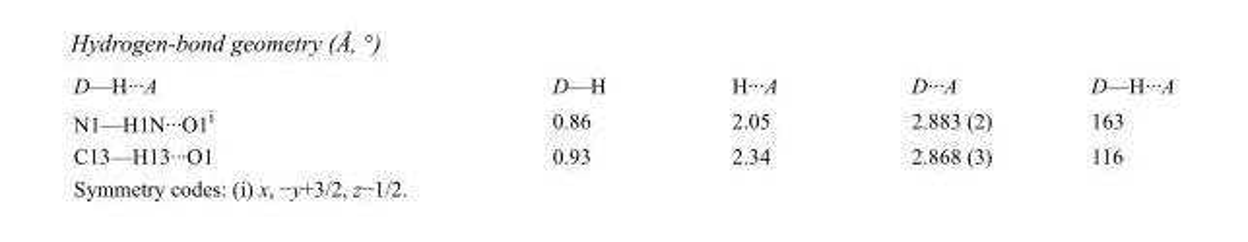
<table><tbody><tr><td>D—H···A</td><td>D—H</td><td>H···A</td><td>D···A</td><td>D—H···A</td></tr><tr><td>N1—H1N···O1<sup>i</sup></td><td>0.86</td><td>2.05</td><td>2.883 (2)</td><td>163</td></tr><tr><td>C13—H13···O1</td><td>0.93</td><td>2.34</td><td>2.868 (3)</td><td>116</td></tr></tbody></table>